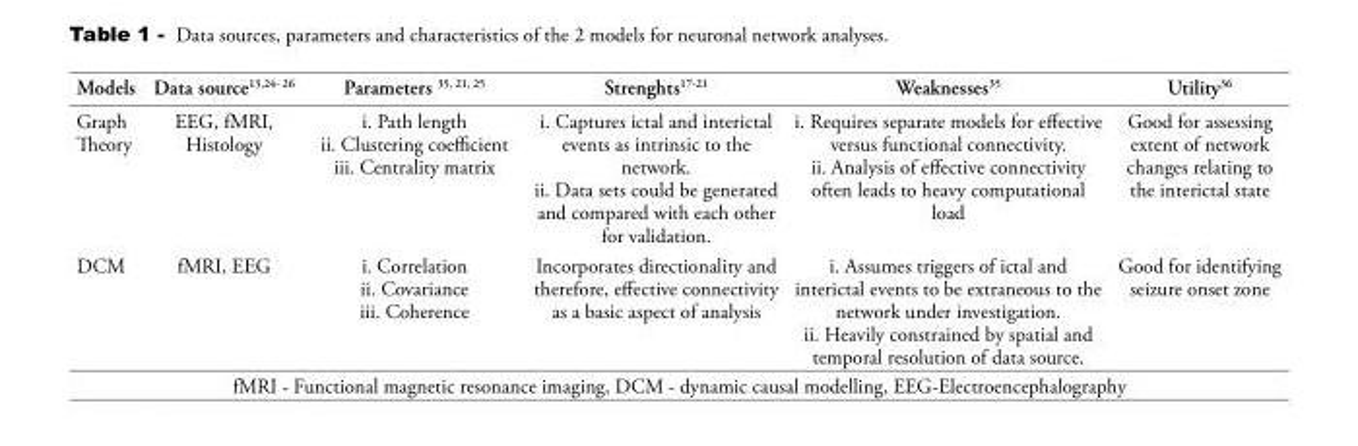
<table><thead><tr><td>Models</td><td>Data source<sup>13</sup>,<sup>24</sup>- <sup>26</sup></td><td>Parameters <sup>35</sup>, <sup>21</sup>, <sup>25</sup></td><td>Strenghts<sup>17</sup>-<sup>21</sup></td><td>Weaknesses35</td><td>Utility<sup>36</sup></td></tr></thead><tbody><tr><td>Graph Theory</td><td>EEG, fMRI, Histology</td><td>i. Path length ii. Clustering coefficient iii. Centrality matrix</td><td>i. Captures ictal and interictal events as intrinsic to the network. ii. Data sets could be generated and compared with each other for validation.</td><td>i. Requires separate models for effective versus functional connectivity. ii. Analysis of effective connectivity often leads to heavy computational load</td><td>Good for assessing extent of network changes relating to the interictal state</td></tr><tr><td>DCM</td><td>fMRI, EEG</td><td>i. Correlation ii. Covariance iii. Coherence</td><td>Incorporates directionality and therefore, effective connectivity as a basic aspect of analysis</td><td>i. Assumes triggers of ictal and interictal events to be extraneous to the network under investigation. ii. Heavily constrained by spatial and temporal resolution of data source.</td><td>Good for identifying seizure onset zone</td></tr></tbody></table>